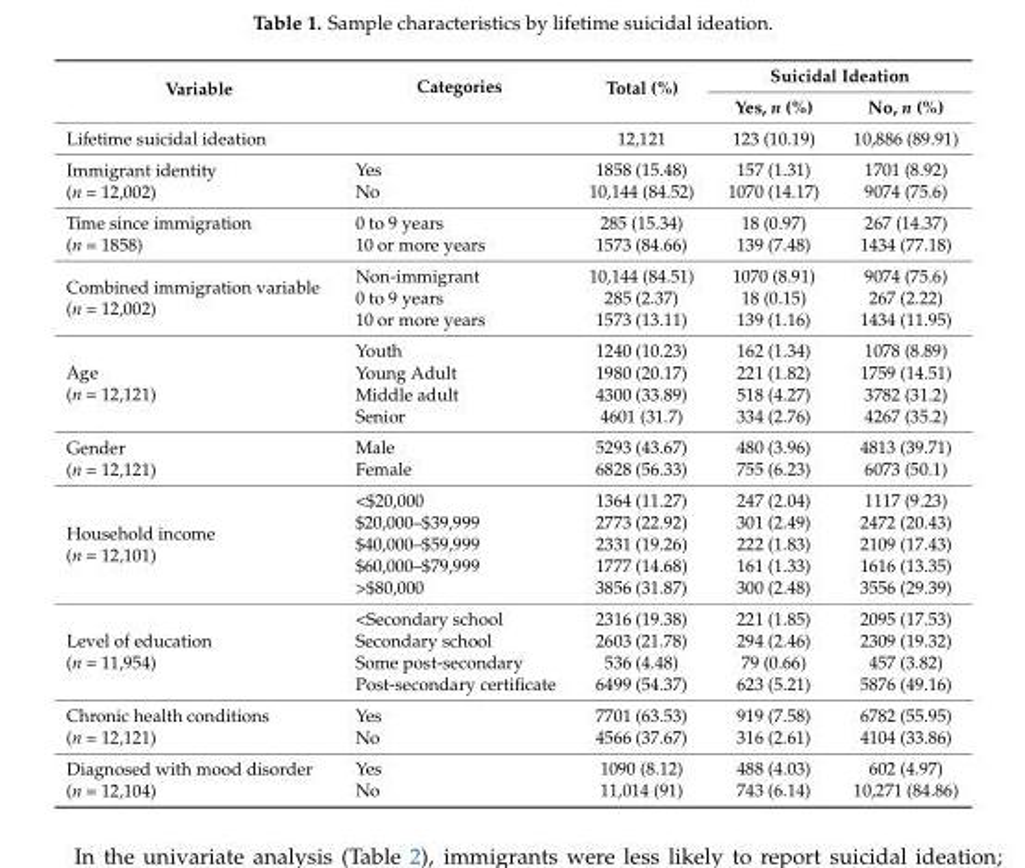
<table><thead><tr><td rowspan="2">Variable</td><td rowspan="2">Categories</td><td rowspan="2">Total (%)</td><td colspan="2">Suicidal Ideation</td></tr><tr><td>Yes, n (%)</td><td>No, n (%)</td></tr></thead><tbody><tr><td>Lifetime suicidal ideation</td><td></td><td>12,121</td><td>123 (10.19)</td><td>10,886 (89.91)</td></tr><tr><td rowspan="2">Immigrant identity (n = 12,002)</td><td>Yes</td><td>1858 (15.48)</td><td>157 (1.31)</td><td>1701 (8.92)</td></tr><tr><td>No</td><td>10,144 (84.52)</td><td>1070 (14.17)</td><td>9074 (75.6)</td></tr><tr><td rowspan="2">Time since immigration (n = 1858)</td><td>0 to 9 years</td><td>285 (15.34)</td><td>18 (0.97)</td><td>267 (14.37)</td></tr><tr><td>10 or more years</td><td>1573 (84.66)</td><td>139 (7.48)</td><td>1434 (77.18)</td></tr><tr><td rowspan="3">Combined immigration variable (n = 12,002)</td><td>Non-immigrant</td><td>10,144 (84.51)</td><td>1070 (8.91)</td><td>9074 (75.6)</td></tr><tr><td>0 to 9 years</td><td>285 (2.37)</td><td>18 (0.15)</td><td>267 (2.22)</td></tr><tr><td>10 or more years</td><td>1573 (13.11)</td><td>139 (1.16)</td><td>1434 (11.95)</td></tr><tr><td rowspan="4">Age (n = 12,121)</td><td>Youth</td><td>1240 (10.23)</td><td>162 (1.34)</td><td>1078 (8.89)</td></tr><tr><td>Young Adult</td><td>1980 (20.17)</td><td>221 (1.82)</td><td>1759 (14.51)</td></tr><tr><td>Middle adult</td><td>4300 (33.89)</td><td>518 (4.27)</td><td>3782 (31.2)</td></tr><tr><td>Senior</td><td>4601 (31.7)</td><td>334 (2.76)</td><td>4267 (35.2)</td></tr><tr><td rowspan="2">Gender (n = 12,121)</td><td>Male</td><td>5293 (43.67)</td><td>480 (3.96)</td><td>4813 (39.71)</td></tr><tr><td>Female</td><td>6828 (56.33)</td><td>755 (6.23)</td><td>6073 (50.1)</td></tr><tr><td rowspan="5">Household income (n = 12,101)</td><td>&lt;$20,000</td><td>1364 (11.27)</td><td>247 (2.04)</td><td>1117 (9.23)</td></tr><tr><td>$20,000–$39,999</td><td>2773 (22.92)</td><td>301 (2.49)</td><td>2472 (20.43)</td></tr><tr><td>$40,000–$59,999</td><td>2331 (19.26)</td><td>222 (1.83)</td><td>2109 (17.43)</td></tr><tr><td>$60,000–$79,999</td><td>1777 (14.68)</td><td>161 (1.33)</td><td>1616 (13.35)</td></tr><tr><td>&gt;$80,000</td><td>3856 (31.87)</td><td>300 (2.48)</td><td>3556 (29.39)</td></tr><tr><td rowspan="4">Level of education (n = 11,954)</td><td>&lt;Secondary school</td><td>2316 (19.38)</td><td>221 (1.85)</td><td>2095 (17.53)</td></tr><tr><td>Secondary school</td><td>2603 (21.78)</td><td>294 (2.46)</td><td>2309 (19.32)</td></tr><tr><td>Some post-secondary</td><td>536 (4.48)</td><td>79 (0.66)</td><td>457 (3.82)</td></tr><tr><td>Post-secondary certificate</td><td>6499 (54.37)</td><td>623 (5.21)</td><td>5876 (49.16)</td></tr><tr><td rowspan="2">Chronic health conditions (n = 12,121)</td><td>Yes</td><td>7701 (63.53)</td><td>919 (7.58)</td><td>6782 (55.95)</td></tr><tr><td>No</td><td>4566 (37.67)</td><td>316 (2.61)</td><td>4104 (33.86)</td></tr><tr><td rowspan="2">Diagnosed with mood disorder (n = 12,104)</td><td>Yes</td><td>1090 (8.12)</td><td>488 (4.03)</td><td>602 (4.97)</td></tr><tr><td>No</td><td>11,014 (91)</td><td>743 (6.14)</td><td>10,271 (84.86)</td></tr></tbody></table>